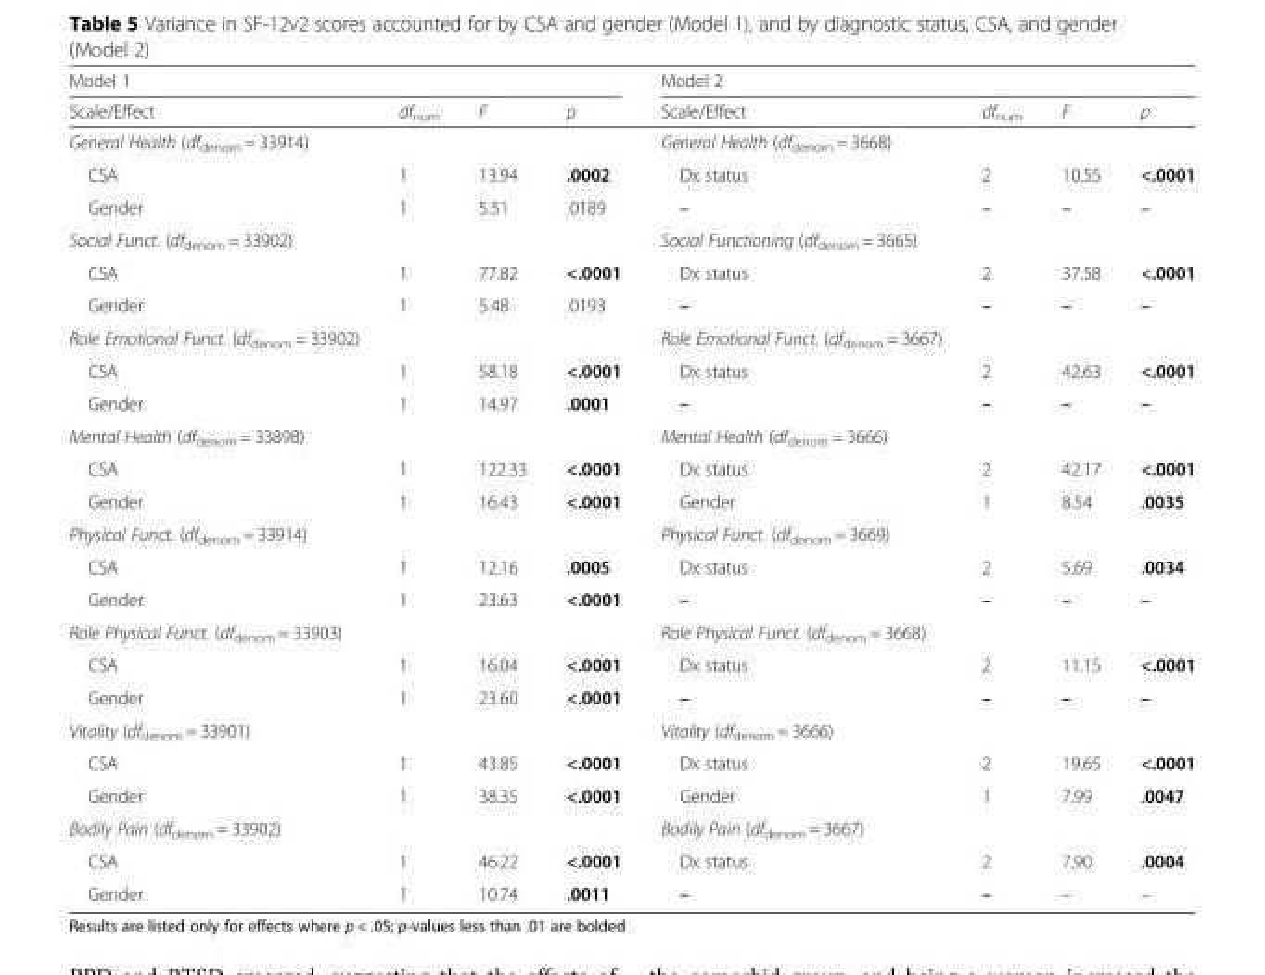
<table><thead><tr><td colspan="4">Model 1</td><td colspan="4">Model 2</td></tr><tr><td>Scale/Effect</td><td>df<sub>num</sub></td><td>F</td><td>p</td><td>Scale/Effect</td><td>df<sub>num</sub></td><td>F</td><td>p</td></tr></thead><tbody><tr><td>General Health (df<sub>denom</sub> = 33914)</td><td></td><td></td><td></td><td>General Health (df<sub>denom</sub> = 3668)</td><td></td><td></td><td></td></tr><tr><td>CSA</td><td>1</td><td>13.94</td><td>.0002</td><td>Dx status</td><td>2</td><td>10.55</td><td>&lt;.0001</td></tr><tr><td>Gender</td><td>1</td><td>5.51</td><td>.0189</td><td>–</td><td>–</td><td>–</td><td>–</td></tr><tr><td>Social Funct. (df<sub>denom</sub> = 33902)</td><td></td><td></td><td></td><td>Social Functioning (df<sub>denom</sub> = 3665)</td><td></td><td></td><td></td></tr><tr><td>CSA</td><td>1</td><td>77.82</td><td>&lt;.0001</td><td>Dx status</td><td>2</td><td>37.58</td><td>&lt;.0001</td></tr><tr><td>Gender</td><td>1</td><td>5.48</td><td>.0193</td><td>–</td><td>–</td><td>–</td><td>–</td></tr><tr><td>Role Emotional Funct. (df<sub>denom</sub> = 33902)</td><td></td><td></td><td></td><td>Role Emotional Funct. (df<sub>denom</sub> = 3667)</td><td></td><td></td><td></td></tr><tr><td>CSA</td><td>1</td><td>58.18</td><td>&lt;.0001</td><td>Dx status</td><td>2</td><td>42.63</td><td>&lt;.0001</td></tr><tr><td>Gender</td><td>1</td><td>14.97</td><td>.0001</td><td>–</td><td>–</td><td>–</td><td>–</td></tr><tr><td>Mental Health (df<sub>denom</sub> = 33898)</td><td></td><td></td><td></td><td>Mental Health (df<sub>denom</sub> = 3666)</td><td></td><td></td><td></td></tr><tr><td>CSA</td><td>1</td><td>122.33</td><td>&lt;.0001</td><td>Dx status</td><td>2</td><td>42.17</td><td>&lt;.0001</td></tr><tr><td>Gender</td><td>1</td><td>16.43</td><td>&lt;.0001</td><td>Gender</td><td>1</td><td>8.54</td><td>.0035</td></tr><tr><td>Physical Funct. (df<sub>denom</sub> = 33914)</td><td></td><td></td><td></td><td>Physical Funct. (df<sub>denom</sub> = 3669)</td><td></td><td></td><td></td></tr><tr><td>CSA</td><td>1</td><td>12.16</td><td>.0005</td><td>Dx status</td><td>2</td><td>5.69</td><td>.0034</td></tr><tr><td>Gender</td><td>1</td><td>23.63</td><td>&lt;.0001</td><td>–</td><td>–</td><td>–</td><td>–</td></tr><tr><td>Role Physical Funct. (df<sub>denom</sub> = 33903)</td><td></td><td></td><td></td><td>Role Physical Funct. (df<sub>denom</sub> = 3668)</td><td></td><td></td><td></td></tr><tr><td>CSA</td><td>1</td><td>16.04</td><td>&lt;.0001</td><td>Dx status</td><td>2</td><td>11.15</td><td>&lt;.0001</td></tr><tr><td>Gender</td><td>1</td><td>23.60</td><td>&lt;.0001</td><td>–</td><td>–</td><td>–</td><td>–</td></tr><tr><td>Vitality (df<sub>denom</sub> = 33901)</td><td></td><td></td><td></td><td>Vitality (df<sub>denom</sub> = 3666)</td><td></td><td></td><td></td></tr><tr><td>CSA</td><td>1</td><td>43.85</td><td>&lt;.0001</td><td>Dx status</td><td>2</td><td>19.65</td><td>&lt;.0001</td></tr><tr><td>Gender</td><td>1</td><td>38.35</td><td>&lt;.0001</td><td>Gender</td><td>1</td><td>7.99</td><td>.0047</td></tr><tr><td>Bodily Pain (df<sub>denom</sub> = 33902)</td><td></td><td></td><td></td><td>Bodily Pain (df<sub>denom</sub> = 3667)</td><td></td><td></td><td></td></tr><tr><td>CSA</td><td>1</td><td>46.22</td><td>&lt;.0001</td><td>Dx status</td><td>2</td><td>7.90</td><td>.0004</td></tr><tr><td>Gender</td><td>1</td><td>10.74</td><td>.0011</td><td>–</td><td>–</td><td>–</td><td>–</td></tr></tbody></table>